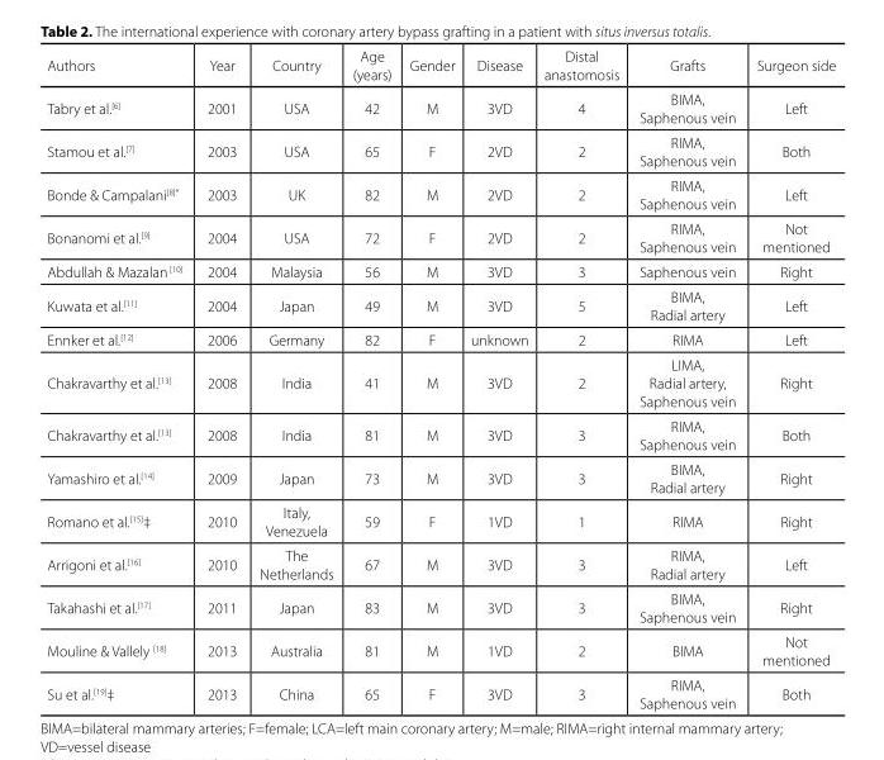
<table><thead><tr><td>Authors</td><td>Year</td><td>Country</td><td>Age (years)</td><td>Gender</td><td>Disease</td><td>Distal anastomosis</td><td>Grafts</td><td>Surgeon side</td></tr></thead><tbody><tr><td>Tabry et al.<sup>[6]</sup></td><td>2001</td><td>USA</td><td>42</td><td>M</td><td>3VD</td><td>4</td><td>BIMA, Saphenous vein</td><td>Left</td></tr><tr><td>Stamou et al.<sup>[7]</sup></td><td>2003</td><td>USA</td><td>65</td><td>F</td><td>2VD</td><td>2</td><td>RIMA, Saphenous vein</td><td>Both</td></tr><tr><td>Bonde &amp; Campalani<sup>[8]</sup>*</td><td>2003</td><td>UK</td><td>82</td><td>M</td><td>2VD</td><td>2</td><td>RIMA, Saphenous vein</td><td>Left</td></tr><tr><td>Bonanomi et al.<sup>[9]</sup></td><td>2004</td><td>USA</td><td>72</td><td>F</td><td>2VD</td><td>2</td><td>RIMA, Saphenous vein</td><td>Not mentioned</td></tr><tr><td>Abdullah &amp; Mazalan <sup>[10]</sup></td><td>2004</td><td>Malaysia</td><td>56</td><td>M</td><td>3VD</td><td>3</td><td>Saphenous vein</td><td>Right</td></tr><tr><td>Kuwata et al.<sup>[11]</sup></td><td>2004</td><td>Japan</td><td>49</td><td>M</td><td>3VD</td><td>5</td><td>BIMA, Radial artery</td><td>Left</td></tr><tr><td>Ennker et al.<sup>[12]</sup></td><td>2006</td><td>Germany</td><td>82</td><td>F</td><td>unknown</td><td>2</td><td>RIMA</td><td>Left</td></tr><tr><td>Chakravarthy et al.<sup>[13]</sup></td><td>2008</td><td>India</td><td>41</td><td>M</td><td>3VD</td><td>2</td><td>LIMA, Radial artery, Saphenous vein</td><td>Right</td></tr><tr><td>Chakravarthy et al.<sup>[13]</sup></td><td>2008</td><td>India</td><td>81</td><td>M</td><td>3VD</td><td>3</td><td>RIMA, Saphenous vein</td><td>Both</td></tr><tr><td>Yamashiro et al.<sup>[14]</sup></td><td>2009</td><td>Japan</td><td>73</td><td>M</td><td>3VD</td><td>3</td><td>BIMA, Radial artery</td><td>Right</td></tr><tr><td>Romano et al.<sup>[15]</sup>‡</td><td>2010</td><td>Italy, Venezuela</td><td>59</td><td>F</td><td>1VD</td><td>1</td><td>RIMA</td><td>Right</td></tr><tr><td>Arrigoni et al.<sup>[16]</sup></td><td>2010</td><td>The Netherlands</td><td>67</td><td>M</td><td>3VD</td><td>3</td><td>RIMA, Radial artery</td><td>Left</td></tr><tr><td>Takahashi et al.<sup>[17]</sup></td><td>2011</td><td>Japan</td><td>83</td><td>M</td><td>3VD</td><td>3</td><td>BIMA, Saphenous vein</td><td>Right</td></tr><tr><td>Mouline &amp; Vallely <sup>[18]</sup></td><td>2013</td><td>Australia</td><td>81</td><td>M</td><td>1VD</td><td>2</td><td>BIMA</td><td>Not mentioned</td></tr><tr><td>Su et al.<sup>[19]</sup>‡</td><td>2013</td><td>China</td><td>65</td><td>F</td><td>3VD</td><td>3</td><td>RIMA, Saphenous vein</td><td>Both</td></tr></tbody></table>